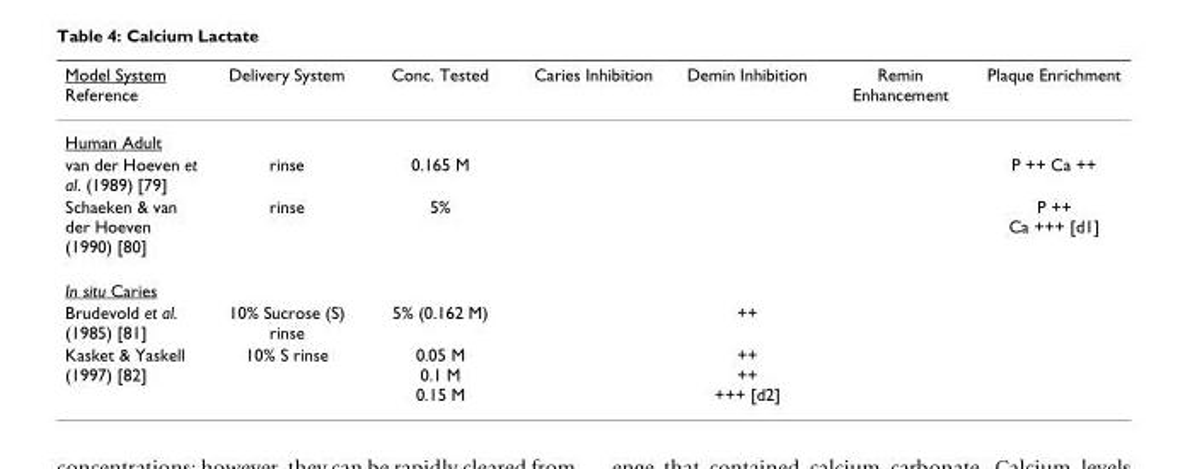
<table><thead><tr><td>Model System Reference</td><td>Delivery System</td><td>Conc. Tested</td><td>Caries Inhibition</td><td>Demin Inhibition</td><td>Remin Enhancement</td><td>Plaque Enrichment</td></tr></thead><tbody><tr><td colspan="7">Human Adult</td></tr><tr><td>van der Hoeven et al. (1989) [79]</td><td>rinse</td><td>0.165 M</td><td></td><td></td><td></td><td>P ++ Ca ++</td></tr><tr><td>Schaeken &amp; van der Hoeven (1990) [80]</td><td>rinse</td><td>5%</td><td></td><td></td><td></td><td>P ++ Ca +++ [d1]</td></tr><tr><td colspan="7">In situ Caries</td></tr><tr><td>Brudevold et al. (1985) [81]</td><td>10% Sucrose (S) rinse</td><td>5% (0.162 M)</td><td></td><td>++</td><td></td><td></td></tr><tr><td>Kasket &amp; Yaskell (1997) [82]</td><td>10% S rinse</td><td>0.05 M 0.1 M 0.15 M</td><td></td><td>++ ++ +++ [d2]</td><td></td><td></td></tr></tbody></table>